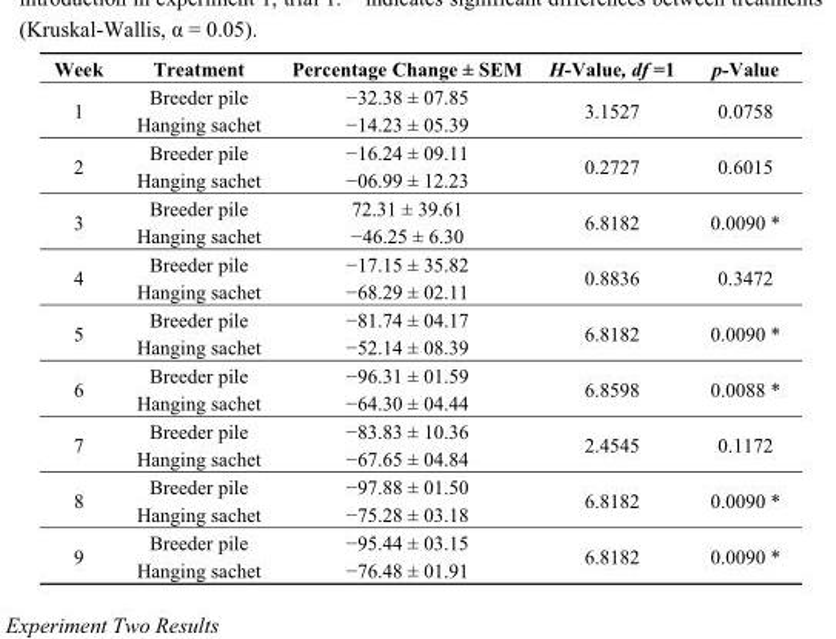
<table><thead><tr><td>Week</td><td>Treatment</td><td>Percentage Change ± SEM</td><td>H-Value, df =1</td><td>p-Value</td></tr></thead><tbody><tr><td rowspan="2">1</td><td>Breeder pile</td><td>−32.38 ± 07.85</td><td rowspan="2">3.1527</td><td rowspan="2">0.0758</td></tr><tr><td>Hanging sachet</td><td>−14.23 ± 05.39</td></tr><tr><td rowspan="2">2</td><td>Breeder pile</td><td>−16.24 ± 09.11</td><td rowspan="2">0.2727</td><td rowspan="2">0.6015</td></tr><tr><td>Hanging sachet</td><td>−06.99 ± 12.23</td></tr><tr><td rowspan="2">3</td><td>Breeder pile</td><td>72.31 ± 39.61</td><td rowspan="2">6.8182</td><td rowspan="2">0.0090 *</td></tr><tr><td>Hanging sachet</td><td>−46.25 ± 6.30</td></tr><tr><td rowspan="2">4</td><td>Breeder pile</td><td>−17.15 ± 35.82</td><td rowspan="2">0.8836</td><td rowspan="2">0.3472</td></tr><tr><td>Hanging sachet</td><td>−68.29 ± 02.11</td></tr><tr><td rowspan="2">5</td><td>Breeder pile</td><td>−81.74 ± 04.17</td><td rowspan="2">6.8182</td><td rowspan="2">0.0090 *</td></tr><tr><td>Hanging sachet</td><td>−52.14 ± 08.39</td></tr><tr><td rowspan="2">6</td><td>Breeder pile</td><td>−96.31 ± 01.59</td><td rowspan="2">6.8598</td><td rowspan="2">0.0088 *</td></tr><tr><td>Hanging sachet</td><td>−64.30 ± 04.44</td></tr><tr><td rowspan="2">7</td><td>Breeder pile</td><td>−83.83 ± 10.36</td><td rowspan="2">2.4545</td><td rowspan="2">0.1172</td></tr><tr><td>Hanging sachet</td><td>−67.65 ± 04.84</td></tr><tr><td rowspan="2">8</td><td>Breeder pile</td><td>−97.88 ± 01.50</td><td rowspan="2">6.8182</td><td rowspan="2">0.0090 *</td></tr><tr><td>Hanging sachet</td><td>−75.28 ± 03.18</td></tr><tr><td rowspan="2">9</td><td>Breeder pile</td><td>−95.44 ± 03.15</td><td rowspan="2">6.8182</td><td rowspan="2">0.0090 *</td></tr><tr><td>Hanging sachet</td><td>−76.48 ± 01.91</td></tr></tbody></table>